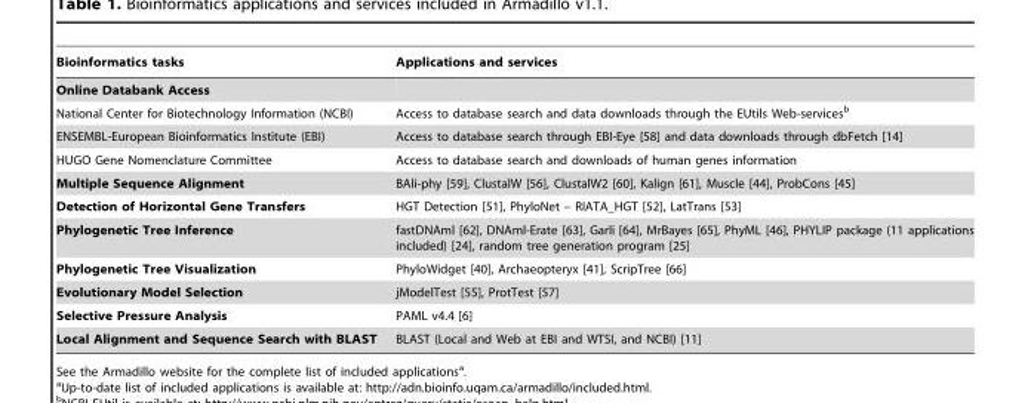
<table><thead><tr><td>Bioinformatics tasks</td><td>Applications and services</td></tr></thead><tbody><tr><td colspan="2">Online Databank Access</td></tr><tr><td>National Center for Biotechnology Information (NCBI)</td><td>Access to database search and data downloads through the EUtils Web-services<sup>b</sup></td></tr><tr><td>ENSEMBL-European Bioinformatics Institute (EBI)</td><td>Access to database search through EBI-Eye [58] and data downloads through dbFetch [14]</td></tr><tr><td>HUGO Gene Nomenclature Committee</td><td>Access to database search and downloads of human genes information</td></tr><tr><td>Multiple Sequence Alignment</td><td>BAli-phy [59], ClustalW [56], ClustalW2 [60], Kalign [61], Muscle [44], ProbCons [45]</td></tr><tr><td>Detection of Horizontal Gene Transfers</td><td>HGT Detection [51], PhyloNet – RIATA_HGT [52], LatTrans [53]</td></tr><tr><td>Phylogenetic Tree Inference</td><td>fastDNAml [62], DNAml-Erate [63], Garli [64], MrBayes [65], PhyML [46], PHYLIP package (11 applications included) [24], random tree generation program [25]</td></tr><tr><td>Phylogenetic Tree Visualization</td><td>PhyloWidget [40], Archaeopteryx [41], ScripTree [66]</td></tr><tr><td>Evolutionary Model Selection</td><td>jModelTest [55], ProtTest [57]</td></tr><tr><td>Selective Pressure Analysis</td><td>PAML v4.4 [6]</td></tr><tr><td>Local Alignment and Sequence Search with BLAST</td><td>BLAST (Local and Web at EBI and WTSI, and NCBI) [11]</td></tr></tbody></table>